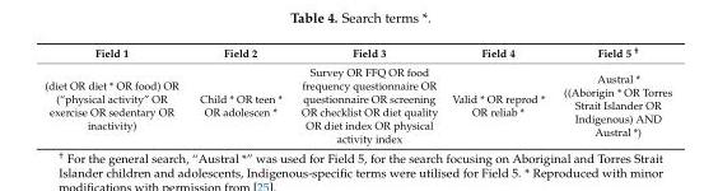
<table><thead><tr><td>Field 1</td><td>Field 2</td><td>Field 3</td><td>Field 4</td><td>Field 5 <sup>†</sup></td></tr></thead><tbody><tr><td>(diet OR diet * OR food) OR (“physical activity” OR exercise OR sedentary OR inactivity)</td><td>Child * OR teen * OR adolescen *</td><td>Survey OR FFQ OR food frequency questionnaire OR questionnaire OR screening OR checklist OR diet quality OR diet index OR physical activity index</td><td>Valid * OR reprod * OR reliab *</td><td>Austral * ((Aborigin * OR Torres Strait Islander OR Indigenous) AND Austral *)</td></tr></tbody></table>